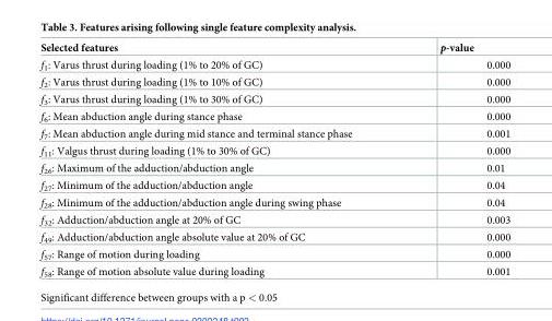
<table><thead><tr><td>Selected features</td><td>p-value</td></tr></thead><tbody><tr><td>f<sub>1</sub>: Varus thrust during loading (1% to 20% of GC)</td><td>0.000</td></tr><tr><td>f<sub>2</sub>: Varus thrust during loading (1% to 10% of GC)</td><td>0.000</td></tr><tr><td>f<sub>3</sub>: Varus thrust during loading (1% to 30% of GC)</td><td>0.000</td></tr><tr><td>f<sub>6</sub>: Mean abduction angle during stance phase</td><td>0.000</td></tr><tr><td>f<sub>7</sub>: Mean abduction angle during mid stance and terminal stance phase</td><td>0.001</td></tr><tr><td>f<sub>11</sub>: Valgus thrust during loading (1% to 30% of GC)</td><td>0.000</td></tr><tr><td>f<sub>26</sub>: Maximum of the adduction/abduction angle</td><td>0.01</td></tr><tr><td>f<sub>27</sub>: Minimum of the adduction/abduction angle</td><td>0.04</td></tr><tr><td>f<sub>28</sub>: Minimum of the adduction/abduction angle during swing phase</td><td>0.04</td></tr><tr><td>f<sub>32</sub>: Adduction/abduction angle at 20% of GC</td><td>0.003</td></tr><tr><td>f<sub>49</sub>: Adduction/abduction angle absolute value at 20% of GC</td><td>0.000</td></tr><tr><td>f<sub>57</sub>: Range of motion during loading</td><td>0.000</td></tr><tr><td>f<sub>58</sub>: Range of motion absolute value during loading</td><td>0.001</td></tr></tbody></table>